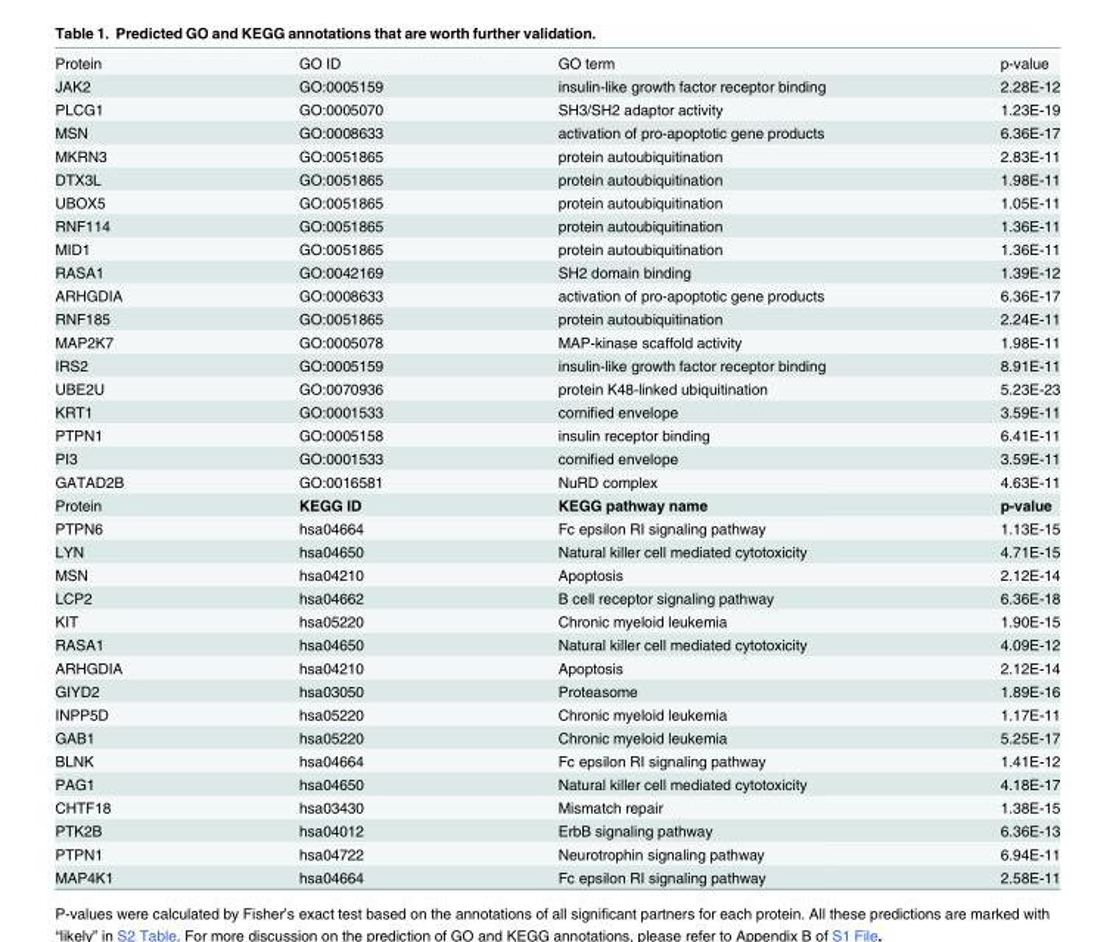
<table><tbody><tr><td>Protein</td><td>GO ID</td><td>GO term</td><td>p-value</td></tr><tr><td>JAK2</td><td>GO:0005159</td><td>insulin-like growth factor receptor binding</td><td>2.28E-12</td></tr><tr><td>PLCG1</td><td>GO:0005070</td><td>SH3/SH2 adaptor activity</td><td>1.23E-19</td></tr><tr><td>MSN</td><td>GO:0008633</td><td>activation of pro-apoptotic gene products</td><td>6.36E-17</td></tr><tr><td>MKRN3</td><td>GO:0051865</td><td>protein autoubiquitination</td><td>2.83E-11</td></tr><tr><td>DTX3L</td><td>GO:0051865</td><td>protein autoubiquitination</td><td>1.98E-11</td></tr><tr><td>UBOX5</td><td>GO:0051865</td><td>protein autoubiquitination</td><td>1.05E-11</td></tr><tr><td>RNF114</td><td>GO:0051865</td><td>protein autoubiquitination</td><td>1.36E-11</td></tr><tr><td>MID1</td><td>GO:0051865</td><td>protein autoubiquitination</td><td>1.36E-11</td></tr><tr><td>RASA1</td><td>GO:0042169</td><td>SH2 domain binding</td><td>1.39E-12</td></tr><tr><td>ARHGDIA</td><td>GO:0008633</td><td>activation of pro-apoptotic gene products</td><td>6.36E-17</td></tr><tr><td>RNF185</td><td>GO:0051865</td><td>protein autoubiquitination</td><td>2.24E-11</td></tr><tr><td>MAP2K7</td><td>GO:0005078</td><td>MAP-kinase scaffold activity</td><td>1.98E-11</td></tr><tr><td>IRS2</td><td>GO:0005159</td><td>insulin-like growth factor receptor binding</td><td>8.91E-11</td></tr><tr><td>UBE2U</td><td>GO:0070936</td><td>protein K48-linked ubiquitination</td><td>5.23E-23</td></tr><tr><td>KRT1</td><td>GO:0001533</td><td>cornified envelope</td><td>3.59E-11</td></tr><tr><td>PTPN1</td><td>GO:0005158</td><td>insulin receptor binding</td><td>6.41E-11</td></tr><tr><td>PI3</td><td>GO:0001533</td><td>cornified envelope</td><td>3.59E-11</td></tr><tr><td>GATAD2B</td><td>GO:0016581</td><td>NuRD complex</td><td>4.63E-11</td></tr><tr><td>Protein</td><td>KEGG ID</td><td>KEGG pathway name</td><td>p-value</td></tr><tr><td>PTPN6</td><td>hsa04664</td><td>Fc epsilon RI signaling pathway</td><td>1.13E-15</td></tr><tr><td>LYN</td><td>hsa04650</td><td>Natural killer cell mediated cytotoxicity</td><td>4.71E-15</td></tr><tr><td>MSN</td><td>hsa04210</td><td>Apoptosis</td><td>2.12E-14</td></tr><tr><td>LCP2</td><td>hsa04662</td><td>B cell receptor signaling pathway</td><td>6.36E-18</td></tr><tr><td>KIT</td><td>hsa05220</td><td>Chronic myeloid leukemia</td><td>1.90E-15</td></tr><tr><td>RASA1</td><td>hsa04650</td><td>Natural killer cell mediated cytotoxicity</td><td>4.09E-12</td></tr><tr><td>ARHGDIA</td><td>hsa04210</td><td>Apoptosis</td><td>2.12E-14</td></tr><tr><td>GIYD2</td><td>hsa03050</td><td>Proteasome</td><td>1.89E-16</td></tr><tr><td>INPP5D</td><td>hsa05220</td><td>Chronic myeloid leukemia</td><td>1.17E-11</td></tr><tr><td>GAB1</td><td>hsa05220</td><td>Chronic myeloid leukemia</td><td>5.25E-17</td></tr><tr><td>BLNK</td><td>hsa04664</td><td>Fc epsilon RI signaling pathway</td><td>1.41E-12</td></tr><tr><td>PAG1</td><td>hsa04650</td><td>Natural killer cell mediated cytotoxicity</td><td>4.18E-17</td></tr><tr><td>CHTF18</td><td>hsa03430</td><td>Mismatch repair</td><td>1.38E-15</td></tr><tr><td>PTK2B</td><td>hsa04012</td><td>ErbB signaling pathway</td><td>6.36E-13</td></tr><tr><td>PTPN1</td><td>hsa04722</td><td>Neurotrophin signaling pathway</td><td>6.94E-11</td></tr><tr><td>MAP4K1</td><td>hsa04664</td><td>Fc epsilon RI signaling pathway</td><td>2.58E-11</td></tr></tbody></table>